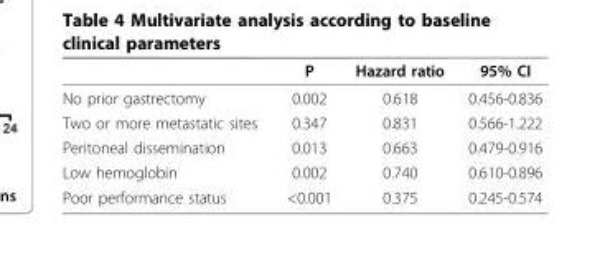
<table><thead><tr><td></td><td>P</td><td>Hazard ratio</td><td>95% CI</td></tr></thead><tbody><tr><td>No prior gastrectomy</td><td>0.002</td><td>0.618</td><td>0.456-0.836</td></tr><tr><td>Two or more metastatic sites</td><td>0.347</td><td>0.831</td><td>0.566-1.222</td></tr><tr><td>Peritoneal dissemination</td><td>0.013</td><td>0.663</td><td>0.479-0.916</td></tr><tr><td>Low hemoglobin</td><td>0.002</td><td>0.740</td><td>0.610-0.896</td></tr><tr><td>Poor performance status</td><td>&lt;0.001</td><td>0.375</td><td>0.245-0.574</td></tr></tbody></table>